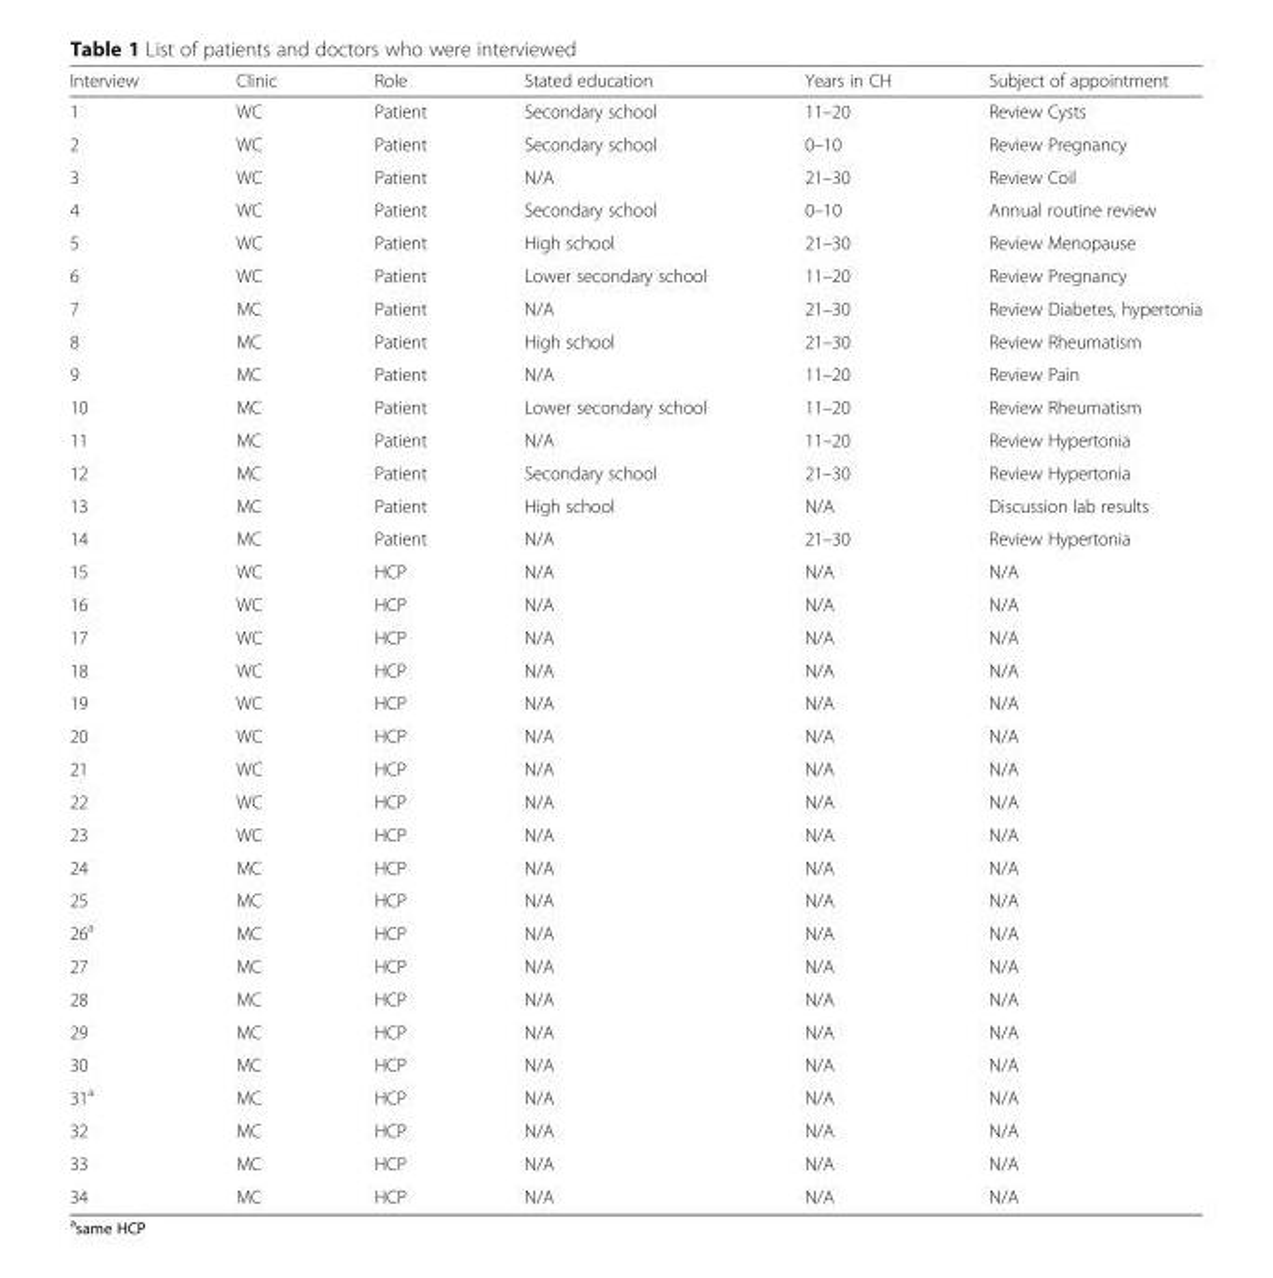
<table><thead><tr><td>Interview</td><td>Clinic</td><td>Role</td><td>Stated education</td><td>Years in CH</td><td>Subject of appointment</td></tr></thead><tbody><tr><td>1</td><td>WC</td><td>Patient</td><td>Secondary school</td><td>11–20</td><td>Review Cysts</td></tr><tr><td>2</td><td>WC</td><td>Patient</td><td>Secondary school</td><td>0–10</td><td>Review Pregnancy</td></tr><tr><td>3</td><td>WC</td><td>Patient</td><td>N/A</td><td>21–30</td><td>Review Coil</td></tr><tr><td>4</td><td>WC</td><td>Patient</td><td>Secondary school</td><td>0–10</td><td>Annual routine review</td></tr><tr><td>5</td><td>WC</td><td>Patient</td><td>High school</td><td>21–30</td><td>Review Menopause</td></tr><tr><td>6</td><td>WC</td><td>Patient</td><td>Lower secondary school</td><td>11–20</td><td>Review Pregnancy</td></tr><tr><td>7</td><td>MC</td><td>Patient</td><td>N/A</td><td>21–30</td><td>Review Diabetes, hypertonia</td></tr><tr><td>8</td><td>MC</td><td>Patient</td><td>High school</td><td>21–30</td><td>Review Rheumatism</td></tr><tr><td>9</td><td>MC</td><td>Patient</td><td>N/A</td><td>11–20</td><td>Review Pain</td></tr><tr><td>10</td><td>MC</td><td>Patient</td><td>Lower secondary school</td><td>11–20</td><td>Review Rheumatism</td></tr><tr><td>11</td><td>MC</td><td>Patient</td><td>N/A</td><td>11–20</td><td>Review Hypertonia</td></tr><tr><td>12</td><td>MC</td><td>Patient</td><td>Secondary school</td><td>21–30</td><td>Review Hypertonia</td></tr><tr><td>13</td><td>MC</td><td>Patient</td><td>High school</td><td>N/A</td><td>Discussion lab results</td></tr><tr><td>14</td><td>MC</td><td>Patient</td><td>N/A</td><td>21–30</td><td>Review Hypertonia</td></tr><tr><td>15</td><td>WC</td><td>HCP</td><td>N/A</td><td>N/A</td><td>N/A</td></tr><tr><td>16</td><td>WC</td><td>HCP</td><td>N/A</td><td>N/A</td><td>N/A</td></tr><tr><td>17</td><td>WC</td><td>HCP</td><td>N/A</td><td>N/A</td><td>N/A</td></tr><tr><td>18</td><td>WC</td><td>HCP</td><td>N/A</td><td>N/A</td><td>N/A</td></tr><tr><td>19</td><td>WC</td><td>HCP</td><td>N/A</td><td>N/A</td><td>N/A</td></tr><tr><td>20</td><td>WC</td><td>HCP</td><td>N/A</td><td>N/A</td><td>N/A</td></tr><tr><td>21</td><td>WC</td><td>HCP</td><td>N/A</td><td>N/A</td><td>N/A</td></tr><tr><td>22</td><td>WC</td><td>HCP</td><td>N/A</td><td>N/A</td><td>N/A</td></tr><tr><td>23</td><td>WC</td><td>HCP</td><td>N/A</td><td>N/A</td><td>N/A</td></tr><tr><td>24</td><td>MC</td><td>HCP</td><td>N/A</td><td>N/A</td><td>N/A</td></tr><tr><td>25</td><td>MC</td><td>HCP</td><td>N/A</td><td>N/A</td><td>N/A</td></tr><tr><td>26<sup>a</sup></td><td>MC</td><td>HCP</td><td>N/A</td><td>N/A</td><td>N/A</td></tr><tr><td>27</td><td>MC</td><td>HCP</td><td>N/A</td><td>N/A</td><td>N/A</td></tr><tr><td>28</td><td>MC</td><td>HCP</td><td>N/A</td><td>N/A</td><td>N/A</td></tr><tr><td>29</td><td>MC</td><td>HCP</td><td>N/A</td><td>N/A</td><td>N/A</td></tr><tr><td>30</td><td>MC</td><td>HCP</td><td>N/A</td><td>N/A</td><td>N/A</td></tr><tr><td>31<sup>a</sup></td><td>MC</td><td>HCP</td><td>N/A</td><td>N/A</td><td>N/A</td></tr><tr><td>32</td><td>MC</td><td>HCP</td><td>N/A</td><td>N/A</td><td>N/A</td></tr><tr><td>33</td><td>MC</td><td>HCP</td><td>N/A</td><td>N/A</td><td>N/A</td></tr><tr><td>34</td><td>MC</td><td>HCP</td><td>N/A</td><td>N/A</td><td>N/A</td></tr></tbody></table>